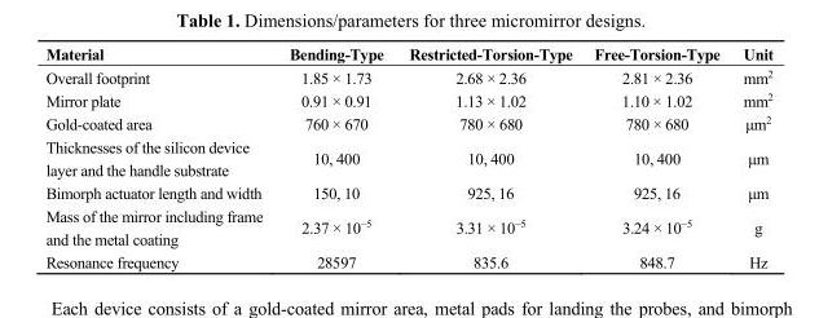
<table><thead><tr><td>Material</td><td>Bending-Type</td><td>Restricted-Torsion-Type</td><td>Free-Torsion-Type</td><td>Unit</td></tr></thead><tbody><tr><td>Overall footprint</td><td>1.85 × 1.73</td><td>2.68 × 2.36</td><td>2.81 × 2.36</td><td>mm<sup>2</sup></td></tr><tr><td>Mirror plate</td><td>0.91 × 0.91</td><td>1.13 × 1.02</td><td>1.10 × 1.02</td><td>mm<sup>2</sup></td></tr><tr><td>Gold-coated area</td><td>760 × 670</td><td>780 × 680</td><td>780 × 680</td><td>μm<sup>2</sup></td></tr><tr><td>Thicknesses of the silicon device layer and the handle substrate</td><td>10, 400</td><td>10, 400</td><td>10, 400</td><td>μm</td></tr><tr><td>Bimorph actuator length and width</td><td>150, 10</td><td>925, 16</td><td>925, 16</td><td>μm</td></tr><tr><td>Mass of the mirror including frame and the metal coating</td><td>2.37 × 10<sup>−5</sup></td><td>3.31 × 10<sup>−5</sup></td><td>3.24 × 10<sup>−5</sup></td><td>g</td></tr><tr><td>Resonance frequency</td><td>28597</td><td>835.6</td><td>848.7</td><td>Hz</td></tr></tbody></table>